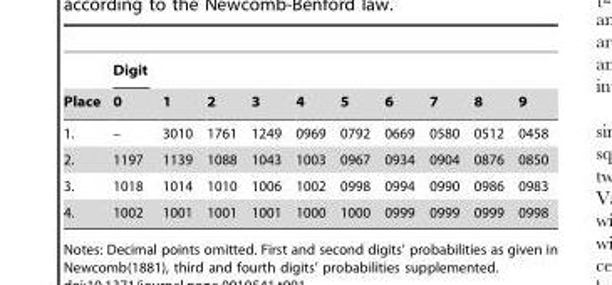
<table><thead><tr><td rowspan="2">Place</td><td rowspan="2">Digit 0</td><td rowspan="2">1</td><td rowspan="2">2</td><td rowspan="2">3</td><td rowspan="2">4</td><td rowspan="2">5</td><td rowspan="2">6</td><td rowspan="2">7</td><td rowspan="2">8</td><td rowspan="2">9</td></tr><tr></tr></thead><tbody><tr><td>1.</td><td>–</td><td>3010</td><td>1761</td><td>1249</td><td>0969</td><td>0792</td><td>0669</td><td>0580</td><td>0512</td><td>0458</td></tr><tr><td>2.</td><td>1197</td><td>1139</td><td>1088</td><td>1043</td><td>1003</td><td>0967</td><td>0934</td><td>0904</td><td>0876</td><td>0850</td></tr><tr><td>3.</td><td>1018</td><td>1014</td><td>1010</td><td>1006</td><td>1002</td><td>0998</td><td>0994</td><td>0990</td><td>0986</td><td>0983</td></tr><tr><td>4.</td><td>1002</td><td>1001</td><td>1001</td><td>1001</td><td>1000</td><td>1000</td><td>0999</td><td>0999</td><td>0999</td><td>0998</td></tr></tbody></table>